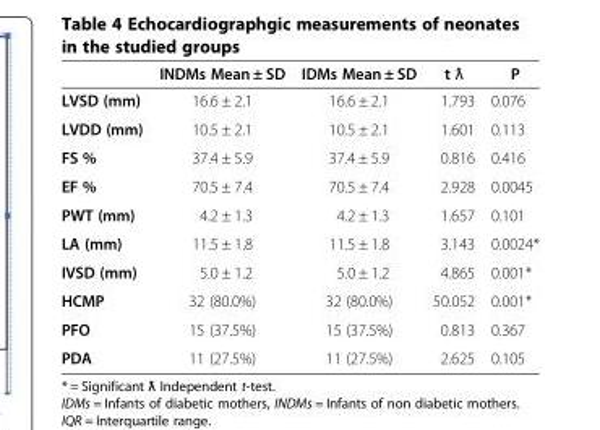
<table><thead><tr><td></td><td>INDMs Mean ± SD</td><td>IDMs Mean ± SD</td><td>t ƛ</td><td>P</td></tr></thead><tbody><tr><td>LVSD (mm)</td><td>16.6 ± 2.1</td><td>16.6 ± 2.1</td><td>1.793</td><td>0.076</td></tr><tr><td>LVDD (mm)</td><td>10.5 ± 2.1</td><td>10.5 ± 2.1</td><td>1.601</td><td>0.113</td></tr><tr><td>FS %</td><td>37.4 ± 5.9</td><td>37.4 ± 5.9</td><td>0.816</td><td>0.416</td></tr><tr><td>EF %</td><td>70.5 ± 7.4</td><td>70.5 ± 7.4</td><td>2.928</td><td>0.0045</td></tr><tr><td>PWT (mm)</td><td>4.2 ± 1.3</td><td>4.2 ± 1.3</td><td>1.657</td><td>0.101</td></tr><tr><td>LA (mm)</td><td>11.5 ± 1.8</td><td>11.5 ± 1.8</td><td>3.143</td><td>0.0024*</td></tr><tr><td>IVSD (mm)</td><td>5.0 ± 1.2</td><td>5.0 ± 1.2</td><td>4.865</td><td>0.001*</td></tr><tr><td>HCMP</td><td>32 (80.0%)</td><td>32 (80.0%)</td><td>50.052</td><td>0.001*</td></tr><tr><td>PFO</td><td>15 (37.5%)</td><td>15 (37.5%)</td><td>0.813</td><td>0.367</td></tr><tr><td>PDA</td><td>11 (27.5%)</td><td>11 (27.5%)</td><td>2.625</td><td>0.105</td></tr></tbody></table>